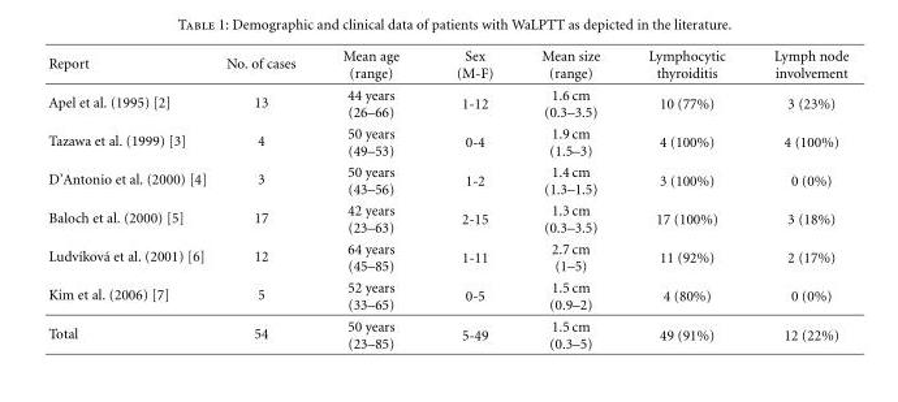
<table><thead><tr><td>Report</td><td>No. of cases</td><td>Mean age (range)</td><td>Sex (M-F)</td><td>Mean size (range)</td><td>Lymphocytic thyroiditis</td><td>Lymph node involvement</td></tr></thead><tbody><tr><td>Apel et al. (1995) [2]</td><td>13</td><td>44 years (26–66)</td><td>1-12</td><td>1.6 cm (0.3–3.5)</td><td>10 (77%)</td><td>3 (23%)</td></tr><tr><td>Tazawa et al. (1999) [3]</td><td>4</td><td>50 years (49–53)</td><td>0-4</td><td>1.9 cm (1.5–3)</td><td>4 (100%)</td><td>4 (100%)</td></tr><tr><td>D’Antonio et al. (2000) [4]</td><td>3</td><td>50 years (43–56)</td><td>1-2</td><td>1.4 cm (1.3–1.5)</td><td>3 (100%)</td><td>0 (0%)</td></tr><tr><td>Baloch et al. (2000) [5]</td><td>17</td><td>42 years (23–63)</td><td>2-15</td><td>1.3 cm (0.3–3.5)</td><td>17 (100%)</td><td>3 (18%)</td></tr><tr><td>Ludv´ıkov´a et al. (2001) [6]</td><td>12</td><td>64 years (45–85)</td><td>1-11</td><td>2.7 cm (1–5)</td><td>11 (92%)</td><td>2 (17%)</td></tr><tr><td>Kim et al. (2006) [7]</td><td>5</td><td>52 years (33–65)</td><td>0-5</td><td>1.5 cm (0.9–2)</td><td>4 (80%)</td><td>0 (0%)</td></tr><tr><td>Total</td><td>54</td><td>50 years (23–85)</td><td>5-49</td><td>1.5 cm (0.3–5)</td><td>49 (91%)</td><td>12 (22%)</td></tr></tbody></table>